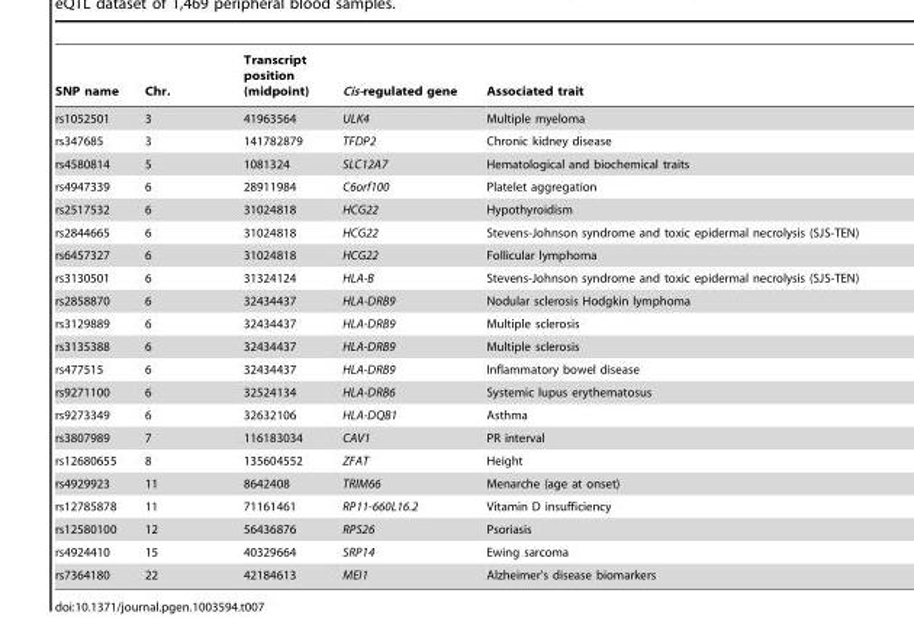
<table><thead><tr><td>SNP name</td><td>Chr.</td><td>Transcript position (midpoint)</td><td>Cis-regulated gene</td><td>Associated trait</td></tr></thead><tbody><tr><td>rs1052501</td><td>3</td><td>41963564</td><td>ULK4</td><td>Multiple myeloma</td></tr><tr><td>rs347685</td><td>3</td><td>141782879</td><td>TFDP2</td><td>Chronic kidney disease</td></tr><tr><td>rs4580814</td><td>5</td><td>1081324</td><td>SLC12A7</td><td>Hematological and biochemical traits</td></tr><tr><td>rs4947339</td><td>6</td><td>28911984</td><td>C6orf100</td><td>Platelet aggregation</td></tr><tr><td>rs2517532</td><td>6</td><td>31024818</td><td>HCG22</td><td>Hypothyroidism</td></tr><tr><td>rs2844665</td><td>6</td><td>31024818</td><td>HCG22</td><td>Stevens-Johnson syndrome and toxic epidermal necrolysis (SJS-TEN)</td></tr><tr><td>rs6457327</td><td>6</td><td>31024818</td><td>HCG22</td><td>Follicular lymphoma</td></tr><tr><td>rs3130501</td><td>6</td><td>31324124</td><td>HLA-B</td><td>Stevens-Johnson syndrome and toxic epidermal necrolysis (SJS-TEN)</td></tr><tr><td>rs2858870</td><td>6</td><td>32434437</td><td>HLA-DRB9</td><td>Nodular sclerosis Hodgkin lymphoma</td></tr><tr><td>rs3129889</td><td>6</td><td>32434437</td><td>HLA-DRB9</td><td>Multiple sclerosis</td></tr><tr><td>rs3135388</td><td>6</td><td>32434437</td><td>HLA-DRB9</td><td>Multiple sclerosis</td></tr><tr><td>rs477515</td><td>6</td><td>32434437</td><td>HLA-DRB9</td><td>Inflammatory bowel disease</td></tr><tr><td>rs9271100</td><td>6</td><td>32524134</td><td>HLA-DRB6</td><td>Systemic lupus erythematosus</td></tr><tr><td>rs9273349</td><td>6</td><td>32632106</td><td>HLA-DQB1</td><td>Asthma</td></tr><tr><td>rs3807989</td><td>7</td><td>116183034</td><td>CAV1</td><td>PR interval</td></tr><tr><td>rs12680655</td><td>8</td><td>135604552</td><td>ZFAT</td><td>Height</td></tr><tr><td>rs4929923</td><td>11</td><td>8642408</td><td>TRIM66</td><td>Menarche (age at onset)</td></tr><tr><td>rs12785878</td><td>11</td><td>71161461</td><td>RP11-660L16.2</td><td>Vitamin D insufficiency</td></tr><tr><td>rs12580100</td><td>12</td><td>56436876</td><td>RPS26</td><td>Psoriasis</td></tr><tr><td>rs4924410</td><td>15</td><td>40329664</td><td>SRP14</td><td>Ewing sarcoma</td></tr><tr><td>rs7364180</td><td>22</td><td>42184613</td><td>MEI1</td><td>Alzheimer’s disease biomarkers</td></tr></tbody></table>